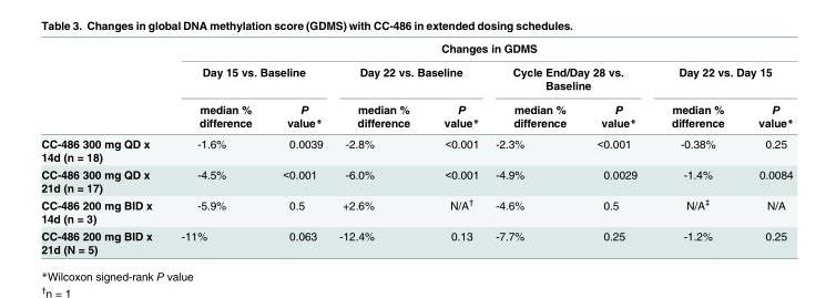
<table><thead><tr><td rowspan="3"></td><td colspan="8">Changes in GDMS</td></tr><tr><td colspan="2">Day 15 vs. Baseline</td><td colspan="2">Day 22 vs. Baseline</td><td colspan="2">Cycle End/Day 28 vs. Baseline</td><td colspan="2">Day 22 vs. Day 15</td></tr><tr><td>median % difference</td><td>P value*</td><td>median % difference</td><td>P value*</td><td>median % difference</td><td>P value*</td><td>median % difference</td><td>P value*</td></tr></thead><tbody><tr><td>CC-486 300 mg QD x 14d (n = 18)</td><td>-1.6%</td><td>0.0039</td><td>-2.8%</td><td>&lt;0.001</td><td>-2.3%</td><td>&lt;0.001</td><td>-0.38%</td><td>0.25</td></tr><tr><td>CC-486 300 mg QD x 21d (n = 17)</td><td>-4.5%</td><td>&lt;0.001</td><td>-6.0%</td><td>&lt;0.001</td><td>-4.9%</td><td>0.0029</td><td>-1.4%</td><td>0.0084</td></tr><tr><td>CC-486 200 mg BID x 14d (n = 3)</td><td>-5.9%</td><td>0.5</td><td>+2.6%</td><td>N/A<sup>†</sup></td><td>-4.6%</td><td>0.5</td><td>N/A<sup>‡</sup></td><td>N/A</td></tr><tr><td>CC-486 200 mg BID x 21d (N = 5)</td><td>-11%</td><td>0.063</td><td>-12.4%</td><td>0.13</td><td>-7.7%</td><td>0.25</td><td>-1.2%</td><td>0.25</td></tr></tbody></table>